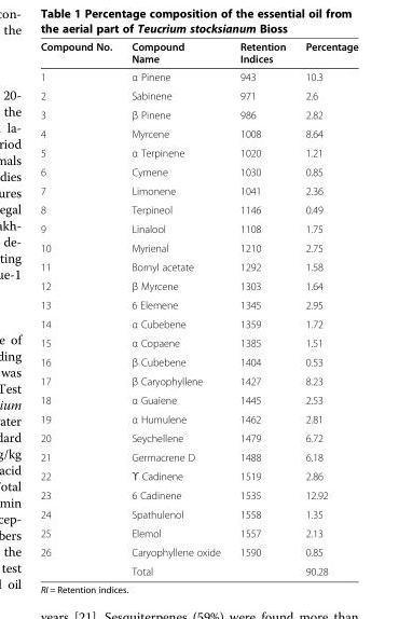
<table><thead><tr><td>Compound No.</td><td>Compound Name</td><td>Retention Indices</td><td>Percentage</td></tr></thead><tbody><tr><td>1</td><td>α Pinene</td><td>943</td><td>10.3</td></tr><tr><td>2</td><td>Sabinene</td><td>971</td><td>2.6</td></tr><tr><td>3</td><td>β Pinene</td><td>986</td><td>2.82</td></tr><tr><td>4</td><td>Myrcene</td><td>1008</td><td>8.64</td></tr><tr><td>5</td><td>α Terpinene</td><td>1020</td><td>1.21</td></tr><tr><td>6</td><td>Cymene</td><td>1030</td><td>0.85</td></tr><tr><td>7</td><td>Limonene</td><td>1041</td><td>2.36</td></tr><tr><td>8</td><td>Terpineol</td><td>1146</td><td>0.49</td></tr><tr><td>9</td><td>Linalool</td><td>1108</td><td>1.75</td></tr><tr><td>10</td><td>Myrienal</td><td>1210</td><td>2.75</td></tr><tr><td>11</td><td>Bornyl acetate</td><td>1292</td><td>1.58</td></tr><tr><td>12</td><td>β Myrcene</td><td>1303</td><td>1.64</td></tr><tr><td>13</td><td>6 Elemene</td><td>1345</td><td>2.95</td></tr><tr><td>14</td><td>α Cubebene</td><td>1359</td><td>1.72</td></tr><tr><td>15</td><td>α Copaene</td><td>1385</td><td>1.51</td></tr><tr><td>16</td><td>β Cubebene</td><td>1404</td><td>0.53</td></tr><tr><td>17</td><td>β Caryophyllene</td><td>1427</td><td>8.23</td></tr><tr><td>18</td><td>α Guaiene</td><td>1445</td><td>2.53</td></tr><tr><td>19</td><td>α Humulene</td><td>1462</td><td>2.81</td></tr><tr><td>20</td><td>Seychellene</td><td>1479</td><td>6.72</td></tr><tr><td>21</td><td>Germacrene D</td><td>1488</td><td>6.18</td></tr><tr><td>22</td><td>ϒ Cadinene</td><td>1519</td><td>2.86</td></tr><tr><td>23</td><td>6 Cadinene</td><td>1535</td><td>12.92</td></tr><tr><td>24</td><td>Spathulenol</td><td>1558</td><td>1.35</td></tr><tr><td>25</td><td>Elemol</td><td>1557</td><td>2.13</td></tr><tr><td rowspan="2">26</td><td>Caryophyllene oxide</td><td>1590</td><td>0.85</td></tr><tr><td>Total</td><td></td><td>90.28</td></tr></tbody></table>